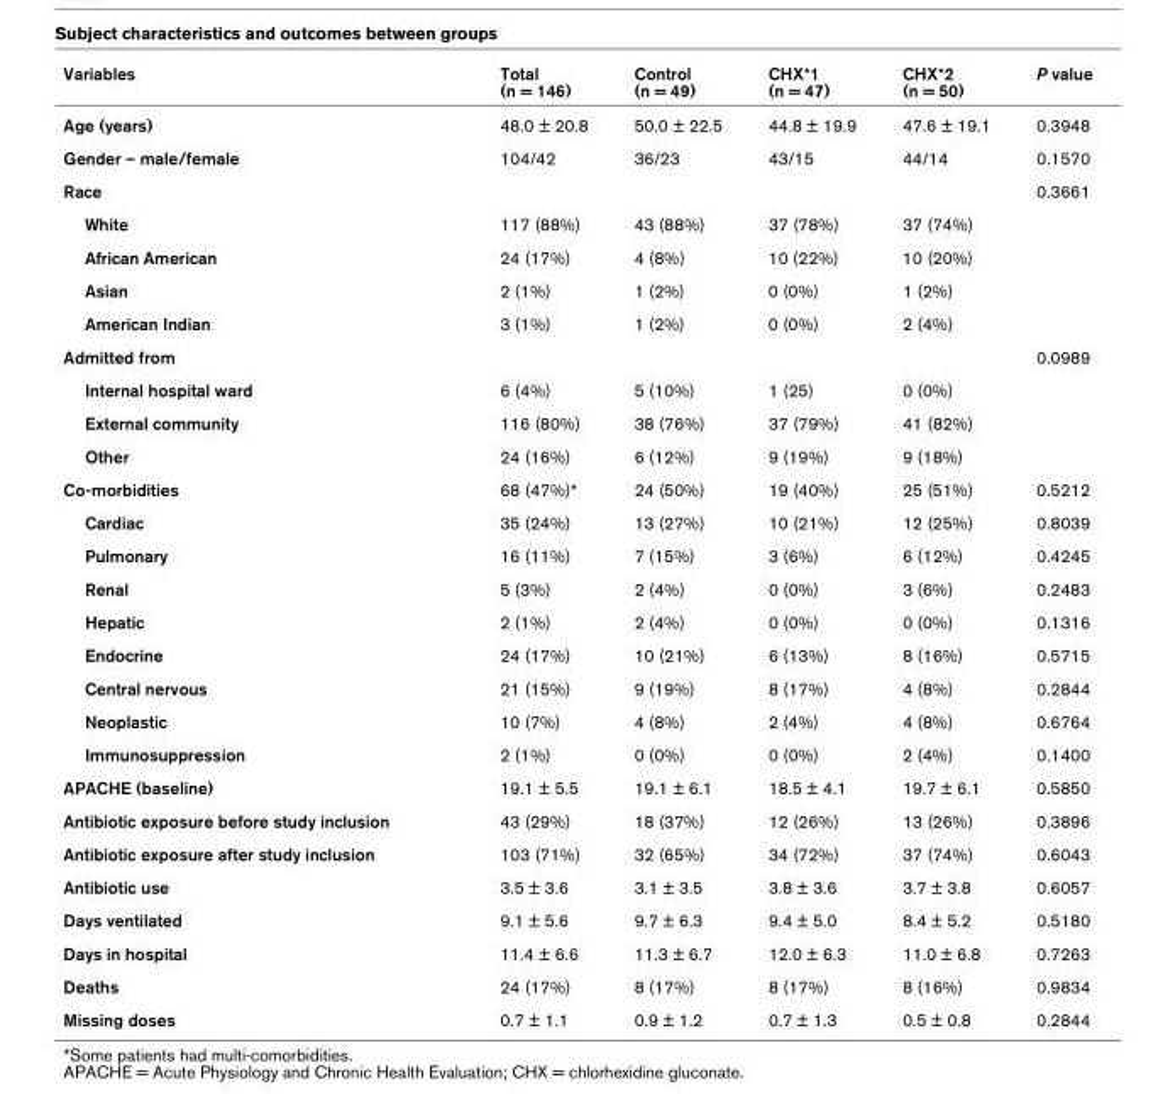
<table><thead><tr><td>Variables</td><td>Total (n = 146)</td><td>Control (n = 49)</td><td>CHX*1 (n = 47)</td><td>CHX*2 (n = 50)</td><td>P value</td></tr></thead><tbody><tr><td>Age (years)</td><td>48.0 ± 20.8</td><td>50.0 ± 22.5</td><td>44.8 ± 19.9</td><td>47.6 ± 19.1</td><td>0.3948</td></tr><tr><td>Gender – male/female</td><td>104/42</td><td>36/23</td><td>43/15</td><td>44/14</td><td>0.1570</td></tr><tr><td>Race</td><td></td><td></td><td></td><td></td><td>0.3661</td></tr><tr><td>White</td><td>117 (88%)</td><td>43 (88%)</td><td>37 (78%)</td><td>37 (74%)</td><td></td></tr><tr><td>African American</td><td>24 (17%)</td><td>4 (8%)</td><td>10 (22%)</td><td>10 (20%)</td><td></td></tr><tr><td>Asian</td><td>2 (1%)</td><td>1 (2%)</td><td>0 (0%)</td><td>1 (2%)</td><td></td></tr><tr><td>American Indian</td><td>3 (1%)</td><td>1 (2%)</td><td>0 (0%)</td><td>2 (4%)</td><td></td></tr><tr><td>Admitted from</td><td></td><td></td><td></td><td></td><td>0.0989</td></tr><tr><td>Internal hospital ward</td><td>6 (4%)</td><td>5 (10%)</td><td>1 (25)</td><td>0 (0%)</td><td></td></tr><tr><td>External community</td><td>116 (80%)</td><td>38 (76%)</td><td>37 (79%)</td><td>41 (82%)</td><td></td></tr><tr><td>Other</td><td>24 (16%)</td><td>6 (12%)</td><td>9 (19%)</td><td>9 (18%)</td><td></td></tr><tr><td>Co-morbidities</td><td>68 (47%)*</td><td>24 (50%)</td><td>19 (40%)</td><td>25 (51%)</td><td>0.5212</td></tr><tr><td>Cardiac</td><td>35 (24%)</td><td>13 (27%)</td><td>10 (21%)</td><td>12 (25%)</td><td>0.8039</td></tr><tr><td>Pulmonary</td><td>16 (11%)</td><td>7 (15%)</td><td>3 (6%)</td><td>6 (12%)</td><td>0.4245</td></tr><tr><td>Renal</td><td>5 (3%)</td><td>2 (4%)</td><td>0 (0%)</td><td>3 (6%)</td><td>0.2483</td></tr><tr><td>Hepatic</td><td>2 (1%)</td><td>2 (4%)</td><td>0 (0%)</td><td>0 (0%)</td><td>0.1316</td></tr><tr><td>Endocrine</td><td>24 (17%)</td><td>10 (21%)</td><td>6 (13%)</td><td>8 (16%)</td><td>0.5715</td></tr><tr><td>Central nervous</td><td>21 (15%)</td><td>9 (19%)</td><td>8 (17%)</td><td>4 (8%)</td><td>0.2844</td></tr><tr><td>Neoplastic</td><td>10 (7%)</td><td>4 (8%)</td><td>2 (4%)</td><td>4 (8%)</td><td>0.6764</td></tr><tr><td>Immunosuppression</td><td>2 (1%)</td><td>0 (0%)</td><td>0 (0%)</td><td>2 (4%)</td><td>0.1400</td></tr><tr><td>APACHE (baseline)</td><td>19.1 ± 5.5</td><td>19.1 ± 6.1</td><td>18.5 ± 4.1</td><td>19.7 ± 6.1</td><td>0.5850</td></tr><tr><td>Antibiotic exposure before study inclusion</td><td>43 (29%)</td><td>18 (37%)</td><td>12 (26%)</td><td>13 (26%)</td><td>0.3896</td></tr><tr><td>Antibiotic exposure after study inclusion</td><td>103 (71%)</td><td>32 (65%)</td><td>34 (72%)</td><td>37 (74%)</td><td>0.6043</td></tr><tr><td>Antibiotic use</td><td>3.5 ± 3.6</td><td>3.1 ± 3.5</td><td>3.8 ± 3.6</td><td>3.7 ± 3.8</td><td>0.6057</td></tr><tr><td>Days ventilated</td><td>9.1 ± 5.6</td><td>9.7 ± 6.3</td><td>9.4 ± 5.0</td><td>8.4 ± 5.2</td><td>0.5180</td></tr><tr><td>Days in hospital</td><td>11.4 ± 6.6</td><td>11.3 ± 6.7</td><td>12.0 ± 6.3</td><td>11.0 ± 6.8</td><td>0.7263</td></tr><tr><td>Deaths</td><td>24 (17%)</td><td>8 (17%)</td><td>8 (17%)</td><td>8 (16%)</td><td>0.9834</td></tr><tr><td>Missing doses</td><td>0.7 ± 1.1</td><td>0.9 ± 1.2</td><td>0.7 ± 1.3</td><td>0.5 ± 0.8</td><td>0.2844</td></tr></tbody></table>